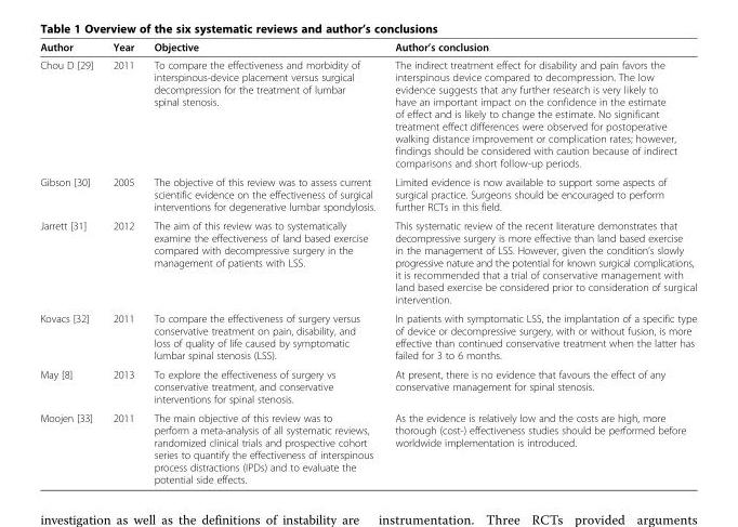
<table><thead><tr><td>Author</td><td>Year</td><td>Objective</td><td>Author’s conclusion</td></tr></thead><tbody><tr><td>Chou D [29]</td><td>2011</td><td>To compare the effectiveness and morbidity of interspinous-device placement versus surgical decompression for the treatment of lumbar spinal stenosis.</td><td>The indirect treatment effect for disability and pain favors the interspinous device compared to decompression. The low evidence suggests that any further research is very likely to have an important impact on the confidence in the estimate of effect and is likely to change the estimate. No significant treatment effect differences were observed for postoperative walking distance improvement or complication rates; however, findings should be considered with caution because of indirect comparisons and short follow-up periods.</td></tr><tr><td>Gibson [30]</td><td>2005</td><td>The objective of this review was to assess current scientific evidence on the effectiveness of surgical interventions for degenerative lumbar spondylosis.</td><td>Limited evidence is now available to support some aspects of surgical practice. Surgeons should be encouraged to perform further RCTs in this field.</td></tr><tr><td>Jarrett [31]</td><td>2012</td><td>The aim of this review was to systematically examine the effectiveness of land based exercise compared with decompressive surgery in the management of patients with LSS.</td><td>This systematic review of the recent literature demonstrates that decompressive surgery is more effective than land based exercise in the management of LSS. However, given the condition’s slowly progressive nature and the potential for known surgical complications, it is recommended that a trial of conservative management with land based exercise be considered prior to consideration of surgical intervention.</td></tr><tr><td>Kovacs [32]</td><td>2011</td><td>To compare the effectiveness of surgery versus conservative treatment on pain, disability, and loss of quality of life caused by symptomatic lumbar spinal stenosis (LSS).</td><td>In patients with symptomatic LSS, the implantation of a specific type of device or decompressive surgery, with or without fusion, is more effective than continued conservative treatment when the latter has failed for 3 to 6 months.</td></tr><tr><td>May [8]</td><td>2013</td><td>To explore the effectiveness of surgery vs conservative treatment, and conservative interventions for spinal stenosis.</td><td>At present, there is no evidence that favours the effect of any conservative management for spinal stenosis.</td></tr><tr><td>Moojen [33]</td><td>2011</td><td>The main objective of this review was to perform a meta-analysis of all systematic reviews, randomized clinical trials and prospective cohort series to quantify the effectiveness of interspinous process distractions (IPDs) and to evaluate the potential side effects.</td><td>As the evidence is relatively low and the costs are high, more thorough (cost-) effectiveness studies should be performed before worldwide implementation is introduced.</td></tr></tbody></table>